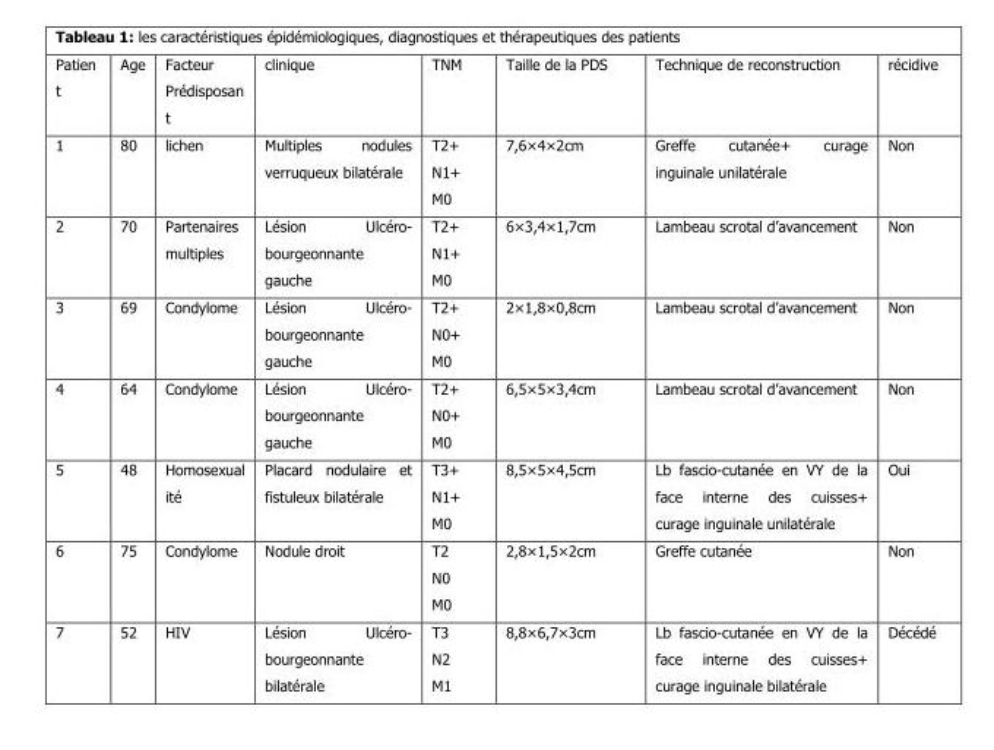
<table><thead><tr><td>Patien t</td><td>Age</td><td>Facteur Prédisposan t</td><td>clinique</td><td>TNM</td><td>Taille de la PDS</td><td>Technique de reconstruction</td><td>récidive</td></tr></thead><tbody><tr><td>1</td><td>80</td><td>lichen</td><td>Multiples nodules verruqueux bilatérale</td><td>T2+ N1+ M0</td><td>7,6×4×2cm</td><td>Greffe cutanée+ curage inguinale unilatérale</td><td>Non</td></tr><tr><td>2</td><td>70</td><td>Partenaires multiples</td><td>Lésion Ulcéro- bourgeonnante gauche</td><td>T2+ N1+ M0</td><td>6×3,4×1,7cm</td><td>Lambeau scrotal d’avancement</td><td>Non</td></tr><tr><td>3</td><td>69</td><td>Condylome</td><td>Lésion Ulcéro- bourgeonnante gauche</td><td>T2+ N0+ M0</td><td>2×1,8×0,8cm</td><td>Lambeau scrotal d’avancement</td><td>Non</td></tr><tr><td>4</td><td>64</td><td>Condylome</td><td>Lésion Ulcéro- bourgeonnante gauche</td><td>T2+ N0+ M0</td><td>6,5×5×3,4cm</td><td>Lambeau scrotal d’avancement</td><td>Non</td></tr><tr><td>5</td><td>48</td><td>Homosexual ité</td><td>Placard nodulaire et fistuleux bilatérale</td><td>T3+ N1+ M0</td><td>8,5×5×4,5cm</td><td>Lb fascio-cutanée en VY de la face interne des cuisses+ curage inguinale unilatérale</td><td>Oui</td></tr><tr><td>6</td><td>75</td><td>Condylome</td><td>Nodule droit</td><td>T2 N0 M0</td><td>2,8×1,5×2cm</td><td>Greffe cutanée</td><td>Non</td></tr><tr><td>7</td><td>52</td><td>HIV</td><td>Lésion Ulcéro- bourgeonnante bilatérale</td><td>T3 N2 M1</td><td>8,8×6,7×3cm</td><td>Lb fascio-cutanée en VY de la face interne des cuisses+ curage inguinale bilatérale</td><td>Décédé</td></tr></tbody></table>